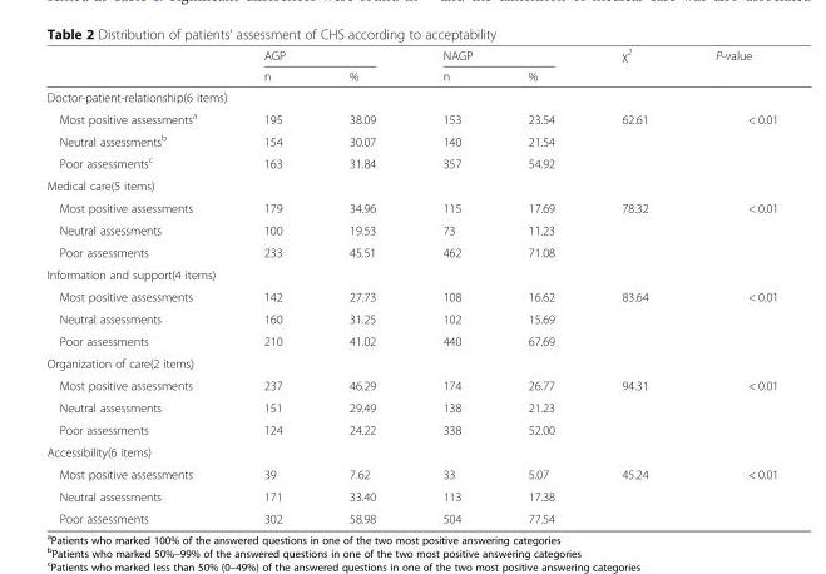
<table><thead><tr><td rowspan="2"></td><td colspan="2">AGP</td><td colspan="2">NAGP</td><td rowspan="2">χ<sup>2</sup></td><td rowspan="2">P-value</td></tr><tr><td>n</td><td>%</td><td>n</td><td>%</td></tr></thead><tbody><tr><td colspan="7">Doctor-patient-relationship(6 items)</td></tr><tr><td>Most positive assessments<sup>a</sup></td><td>195</td><td>38.09</td><td>153</td><td>23.54</td><td>62.61</td><td>&lt; 0.01</td></tr><tr><td>Neutral assessments<sup>b</sup></td><td>154</td><td>30.07</td><td>140</td><td>21.54</td><td></td><td></td></tr><tr><td>Poor assessments<sup>c</sup></td><td>163</td><td>31.84</td><td>357</td><td>54.92</td><td></td><td></td></tr><tr><td colspan="7">Medical care(5 items)</td></tr><tr><td>Most positive assessments</td><td>179</td><td>34.96</td><td>115</td><td>17.69</td><td>78.32</td><td>&lt; 0.01</td></tr><tr><td>Neutral assessments</td><td>100</td><td>19.53</td><td>73</td><td>11.23</td><td></td><td></td></tr><tr><td>Poor assessments</td><td>233</td><td>45.51</td><td>462</td><td>71.08</td><td></td><td></td></tr><tr><td colspan="7">Information and support(4 items)</td></tr><tr><td>Most positive assessments</td><td>142</td><td>27.73</td><td>108</td><td>16.62</td><td>83.64</td><td>&lt; 0.01</td></tr><tr><td>Neutral assessments</td><td>160</td><td>31.25</td><td>102</td><td>15.69</td><td></td><td></td></tr><tr><td>Poor assessments</td><td>210</td><td>41.02</td><td>440</td><td>67.69</td><td></td><td></td></tr><tr><td colspan="7">Organization of care(2 items)</td></tr><tr><td>Most positive assessments</td><td>237</td><td>46.29</td><td>174</td><td>26.77</td><td>94.31</td><td>&lt; 0.01</td></tr><tr><td>Neutral assessments</td><td>151</td><td>29.49</td><td>138</td><td>21.23</td><td></td><td></td></tr><tr><td>Poor assessments</td><td>124</td><td>24.22</td><td>338</td><td>52.00</td><td></td><td></td></tr><tr><td colspan="7">Accessibility(6 items)</td></tr><tr><td>Most positive assessments</td><td>39</td><td>7.62</td><td>33</td><td>5.07</td><td>45.24</td><td>&lt; 0.01</td></tr><tr><td>Neutral assessments</td><td>171</td><td>33.40</td><td>113</td><td>17.38</td><td></td><td></td></tr><tr><td>Poor assessments</td><td>302</td><td>58.98</td><td>504</td><td>77.54</td><td></td><td></td></tr></tbody></table>